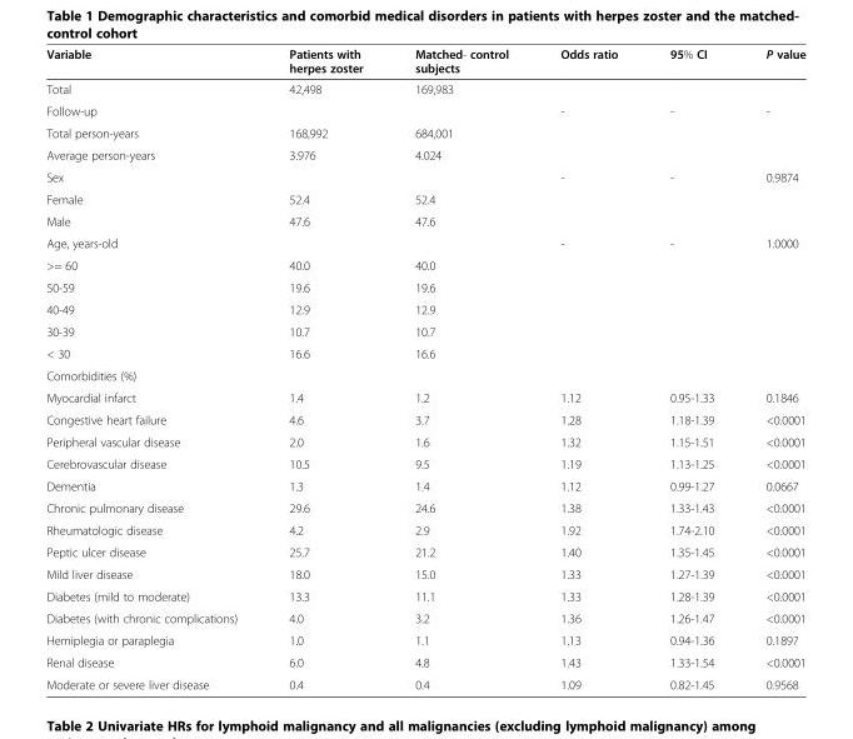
<table><thead><tr><td>Variable</td><td>Patients with herpes zoster</td><td>Matched- control subjects</td><td>Odds ratio</td><td>95% CI</td><td>P value</td></tr></thead><tbody><tr><td>Total</td><td>42,498</td><td>169,983</td><td></td><td></td><td></td></tr><tr><td>Follow-up</td><td></td><td></td><td>-</td><td>-</td><td>-</td></tr><tr><td>Total person-years</td><td>168,992</td><td>684,001</td><td></td><td></td><td></td></tr><tr><td>Average person-years</td><td>3.976</td><td>4.024</td><td></td><td></td><td></td></tr><tr><td>Sex</td><td></td><td></td><td>-</td><td>-</td><td>0.9874</td></tr><tr><td>Female</td><td>52.4</td><td>52.4</td><td></td><td></td><td></td></tr><tr><td>Male</td><td>47.6</td><td>47.6</td><td></td><td></td><td></td></tr><tr><td>Age, years-old</td><td></td><td></td><td>-</td><td>-</td><td>1.0000</td></tr><tr><td>&gt;= 60</td><td>40.0</td><td>40.0</td><td></td><td></td><td></td></tr><tr><td>50-59</td><td>19.6</td><td>19.6</td><td></td><td></td><td></td></tr><tr><td>40-49</td><td>12.9</td><td>12.9</td><td></td><td></td><td></td></tr><tr><td>30-39</td><td>10.7</td><td>10.7</td><td></td><td></td><td></td></tr><tr><td>&lt; 30</td><td>16.6</td><td>16.6</td><td></td><td></td><td></td></tr><tr><td colspan="6">Comorbidities (%)</td></tr><tr><td>Myocardial infarct</td><td>1.4</td><td>1.2</td><td>1.12</td><td>0.95-1.33</td><td>0.1846</td></tr><tr><td>Congestive heart failure</td><td>4.6</td><td>3.7</td><td>1.28</td><td>1.18-1.39</td><td>&lt;0.0001</td></tr><tr><td>Peripheral vascular disease</td><td>2.0</td><td>1.6</td><td>1.32</td><td>1.15-1.51</td><td>&lt;0.0001</td></tr><tr><td>Cerebrovascular disease</td><td>10.5</td><td>9.5</td><td>1.19</td><td>1.13-1.25</td><td>&lt;0.0001</td></tr><tr><td>Dementia</td><td>1.3</td><td>1.4</td><td>1.12</td><td>0.99-1.27</td><td>0.0667</td></tr><tr><td>Chronic pulmonary disease</td><td>29.6</td><td>24.6</td><td>1.38</td><td>1.33-1.43</td><td>&lt;0.0001</td></tr><tr><td>Rheumatologic disease</td><td>4.2</td><td>2.9</td><td>1.92</td><td>1.74-2.10</td><td>&lt;0.0001</td></tr><tr><td>Peptic ulcer disease</td><td>25.7</td><td>21.2</td><td>1.40</td><td>1.35-1.45</td><td>&lt;0.0001</td></tr><tr><td>Mild liver disease</td><td>18.0</td><td>15.0</td><td>1.33</td><td>1.27-1.39</td><td>&lt;0.0001</td></tr><tr><td>Diabetes (mild to moderate)</td><td>13.3</td><td>11.1</td><td>1.33</td><td>1.28-1.39</td><td>&lt;0.0001</td></tr><tr><td>Diabetes (with chronic complications)</td><td>4.0</td><td>3.2</td><td>1.36</td><td>1.26-1.47</td><td>&lt;0.0001</td></tr><tr><td>Hemiplegia or paraplegia</td><td>1.0</td><td>1.1</td><td>1.13</td><td>0.94-1.36</td><td>0.1897</td></tr><tr><td>Renal disease</td><td>6.0</td><td>4.8</td><td>1.43</td><td>1.33-1.54</td><td>&lt;0.0001</td></tr><tr><td>Moderate or severe liver disease</td><td>0.4</td><td>0.4</td><td>1.09</td><td>0.82-1.45</td><td>0.9568</td></tr></tbody></table>